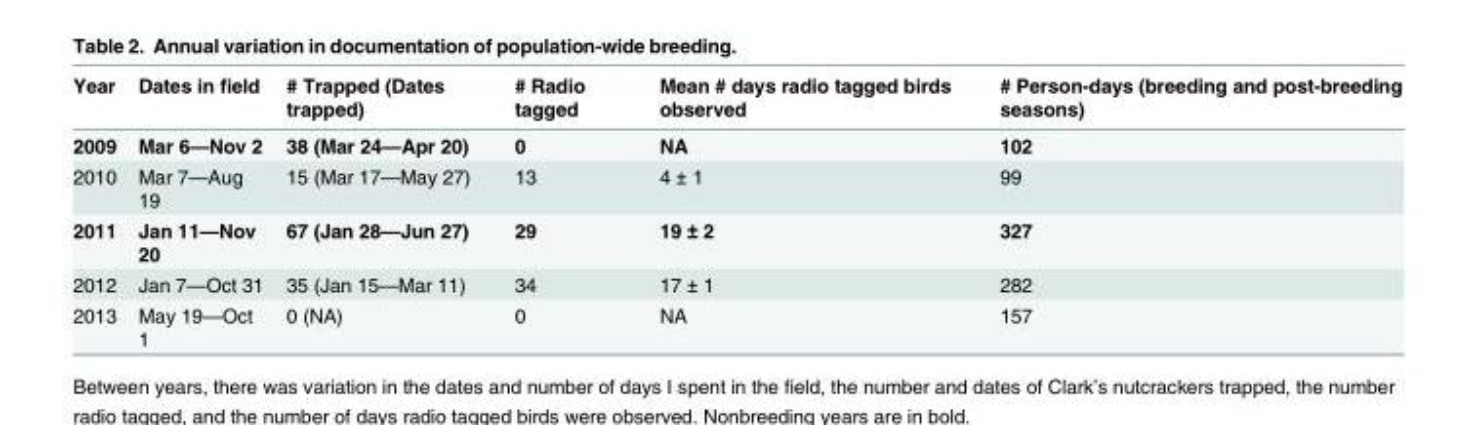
<table><thead><tr><td>Year</td><td>Dates in field</td><td># Trapped (Dates trapped)</td><td># Radio tagged</td><td>Mean # days radio tagged birds observed</td><td># Person-days (breeding and post-breeding seasons)</td></tr></thead><tbody><tr><td>2009</td><td>Mar 6—Nov 2</td><td>38 (Mar 24—Apr 20)</td><td>0</td><td>NA</td><td>102</td></tr><tr><td>2010</td><td>Mar 7—Aug 19</td><td>15 (Mar 17—May 27)</td><td>13</td><td>4 ± 1</td><td>99</td></tr><tr><td>2011</td><td>Jan 11—Nov 20</td><td>67 (Jan 28—Jun 27)</td><td>29</td><td>19 ± 2</td><td>327</td></tr><tr><td>2012</td><td>Jan 7—Oct 31</td><td>35 (Jan 15—Mar 11)</td><td>34</td><td>17 ± 1</td><td>282</td></tr><tr><td>2013</td><td>May 19—Oct 1</td><td>0 (NA)</td><td>0</td><td>NA</td><td>157</td></tr></tbody></table>